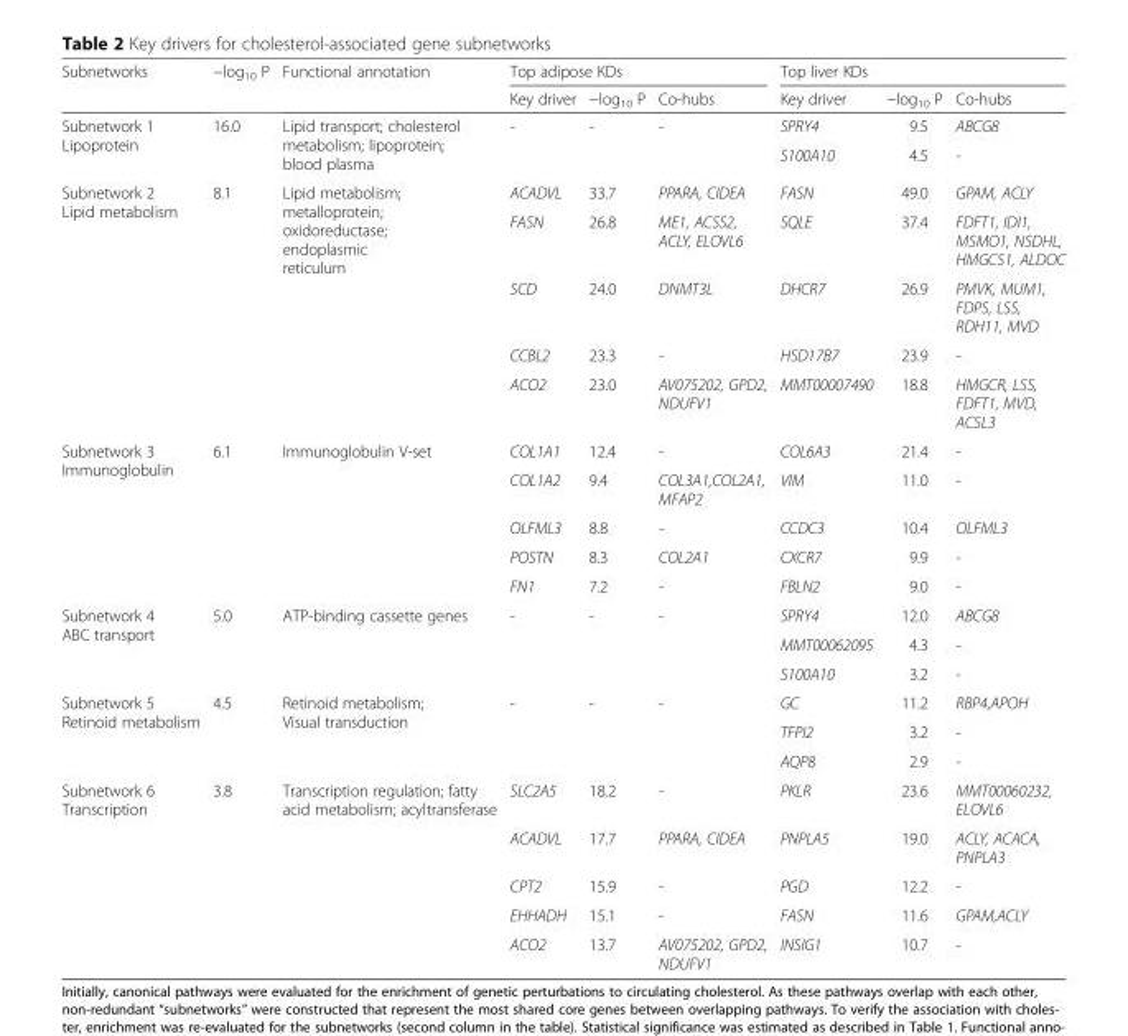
<table><thead><tr><td rowspan="2">Subnetworks</td><td rowspan="2">−log<sub>10</sub> P</td><td rowspan="2">Functional annotation</td><td colspan="3">Top adipose KDs</td><td colspan="3">Top liver KDs</td></tr><tr><td>Key driver</td><td>−log<sub>10</sub> P</td><td>Co-hubs</td><td>Key driver</td><td>−log<sub>10</sub> P</td><td>Co-hubs</td></tr></thead><tbody><tr><td rowspan="2">Subnetwork 1 Lipoprotein</td><td rowspan="2">16.0</td><td rowspan="2">Lipid transport; cholesterol metabolism; lipoprotein; blood plasma</td><td rowspan="2">-</td><td rowspan="2">-</td><td rowspan="2">-</td><td>SPRY4</td><td>9.5</td><td>ABCG8</td></tr><tr><td>S100A10</td><td>4.5</td><td>-</td></tr><tr><td rowspan="5">Subnetwork 2 Lipid metabolism</td><td rowspan="5">8.1</td><td rowspan="5">Lipid metabolism; metalloprotein; oxidoreductase; endoplasmic reticulum</td><td>ACADVL</td><td>33.7</td><td>PPARA, CIDEA</td><td>FASN</td><td>49.0</td><td>GPAM, ACLY</td></tr><tr><td>FASN</td><td>26.8</td><td>ME1, ACSS2, ACLY, ELOVL6</td><td>SQLE</td><td>37.4</td><td>FDFT1, IDI1, MSMO1, NSDHL, HMGCS1, ALDOC</td></tr><tr><td>SCD</td><td>24.0</td><td>DNMT3L</td><td>DHCR7</td><td>26.9</td><td>PMVK, MUM1, FDPS, LSS, RDH11, MVD</td></tr><tr><td>CCBL2</td><td>23.3</td><td>-</td><td>HSD17B7</td><td>23.9</td><td>-</td></tr><tr><td>ACO2</td><td>23.0</td><td>AV075202, GPD2, NDUFV1</td><td>MMT00007490</td><td>18.8</td><td>HMGCR, LSS, FDFT1, MVD, ACSL3</td></tr><tr><td rowspan="5">Subnetwork 3 Immunoglobulin</td><td rowspan="5">6.1</td><td rowspan="5">Immunoglobulin V-set</td><td>COL1A1</td><td>12.4</td><td>-</td><td>COL6A3</td><td>21.4</td><td>-</td></tr><tr><td>COL1A2</td><td>9.4</td><td>COL3A1,COL2A1, MFAP2</td><td>VIM</td><td>11.0</td><td>-</td></tr><tr><td>OLFML3</td><td>8.8</td><td>-</td><td>CCDC3</td><td>10.4</td><td>OLFML3</td></tr><tr><td>POSTN</td><td>8.3</td><td>COL2A1</td><td>CXCR7</td><td>9.9</td><td>-</td></tr><tr><td>FN1</td><td>7.2</td><td>-</td><td>FBLN2</td><td>9.0</td><td>-</td></tr><tr><td rowspan="3">Subnetwork 4 ABC transport</td><td rowspan="3">5.0</td><td rowspan="3">ATP-binding cassette genes</td><td rowspan="3">-</td><td rowspan="3">-</td><td rowspan="3">-</td><td>SPRY4</td><td>12.0</td><td>ABCG8</td></tr><tr><td>MMT00062095</td><td>4.3</td><td>-</td></tr><tr><td>S100A10</td><td>3.2</td><td>-</td></tr><tr><td rowspan="3">Subnetwork 5 Retinoid metabolism</td><td rowspan="3">4.5</td><td rowspan="3">Retinoid metabolism; Visual transduction</td><td rowspan="3">-</td><td rowspan="3">-</td><td rowspan="3">-</td><td>GC</td><td>11.2</td><td>RBP4,APOH</td></tr><tr><td>TFPI2</td><td>3.2</td><td>-</td></tr><tr><td>AQP8</td><td>2.9</td><td>-</td></tr><tr><td rowspan="5">Subnetwork 6 Transcription</td><td rowspan="5">3.8</td><td rowspan="5">Transcription regulation; fatty acid metabolism; acyltransferase</td><td>SLC2A5</td><td>18.2</td><td>-</td><td>PKLR</td><td>23.6</td><td>MMT00060232, ELOVL6</td></tr><tr><td>ACADVL</td><td>17.7</td><td>PPARA, CIDEA</td><td>PNPLA5</td><td>19.0</td><td>ACLY, ACACA, PNPLA3</td></tr><tr><td>CPT2</td><td>15.9</td><td>-</td><td>PGD</td><td>12.2</td><td>-</td></tr><tr><td>EHHADH</td><td>15.1</td><td>-</td><td>FASN</td><td>11.6</td><td>GPAM,ACLY</td></tr><tr><td>ACO2</td><td>13.7</td><td>AV075202, GPD2, NDUFV1</td><td>INSIG1</td><td>10.7</td><td>-</td></tr></tbody></table>